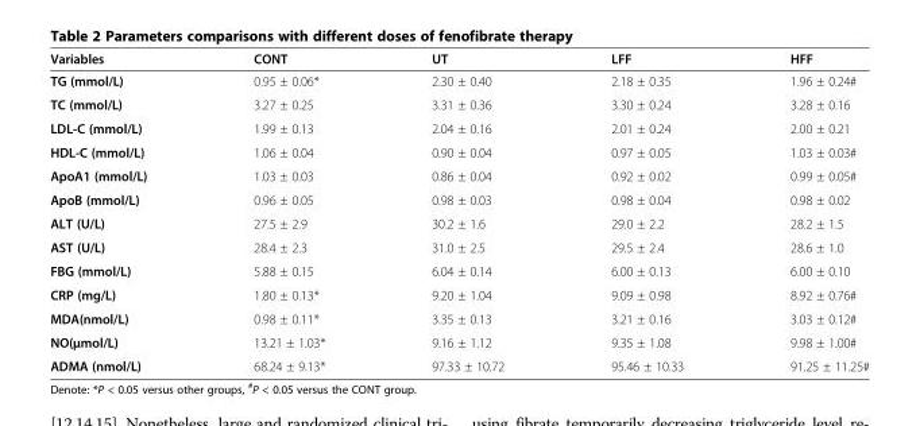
<table><thead><tr><td>Variables</td><td>CONT</td><td>UT</td><td>LFF</td><td>HFF</td></tr></thead><tbody><tr><td>TG (mmol/L)</td><td>0.95 ± 0.06*</td><td>2.30 ± 0.40</td><td>2.18 ± 0.35</td><td>1.96 ± 0.24#</td></tr><tr><td>TC (mmol/L)</td><td>3.27 ± 0.25</td><td>3.31 ± 0.36</td><td>3.30 ± 0.24</td><td>3.28 ± 0.16</td></tr><tr><td>LDL-C (mmol/L)</td><td>1.99 ± 0.13</td><td>2.04 ± 0.16</td><td>2.01 ± 0.24</td><td>2.00 ± 0.21</td></tr><tr><td>HDL-C (mmol/L)</td><td>1.06 ± 0.04</td><td>0.90 ± 0.04</td><td>0.97 ± 0.05</td><td>1.03 ± 0.03#</td></tr><tr><td>ApoA1 (mmol/L)</td><td>1.03 ± 0.03</td><td>0.86 ± 0.04</td><td>0.92 ± 0.02</td><td>0.99 ± 0.05#</td></tr><tr><td>ApoB (mmol/L)</td><td>0.96 ± 0.05</td><td>0.98 ± 0.03</td><td>0.98 ± 0.04</td><td>0.98 ± 0.02</td></tr><tr><td>ALT (U/L)</td><td>27.5 ± 2.9</td><td>30.2 ± 1.6</td><td>29.0 ± 2.2</td><td>28.2 ± 1.5</td></tr><tr><td>AST (U/L)</td><td>28.4 ± 2.3</td><td>31.0 ± 2.5</td><td>29.5 ± 2.4</td><td>28.6 ± 1.0</td></tr><tr><td>FBG (mmol/L)</td><td>5.88 ± 0.15</td><td>6.04 ± 0.14</td><td>6.00 ± 0.13</td><td>6.00 ± 0.10</td></tr><tr><td>CRP (mg/L)</td><td>1.80 ± 0.13*</td><td>9.20 ± 1.04</td><td>9.09 ± 0.98</td><td>8.92 ± 0.76#</td></tr><tr><td>MDA(nmol/L)</td><td>0.98 ± 0.11*</td><td>3.35 ± 0.13</td><td>3.21 ± 0.16</td><td>3.03 ± 0.12#</td></tr><tr><td>NO(μmol/L)</td><td>13.21 ± 1.03*</td><td>9.16 ± 1.12</td><td>9.35 ± 1.08</td><td>9.98 ± 1.00#</td></tr><tr><td>ADMA (nmol/L)</td><td>68.24 ± 9.13*</td><td>97.33 ± 10.72</td><td>95.46 ± 10.33</td><td>91.25 ± 11.25#</td></tr></tbody></table>